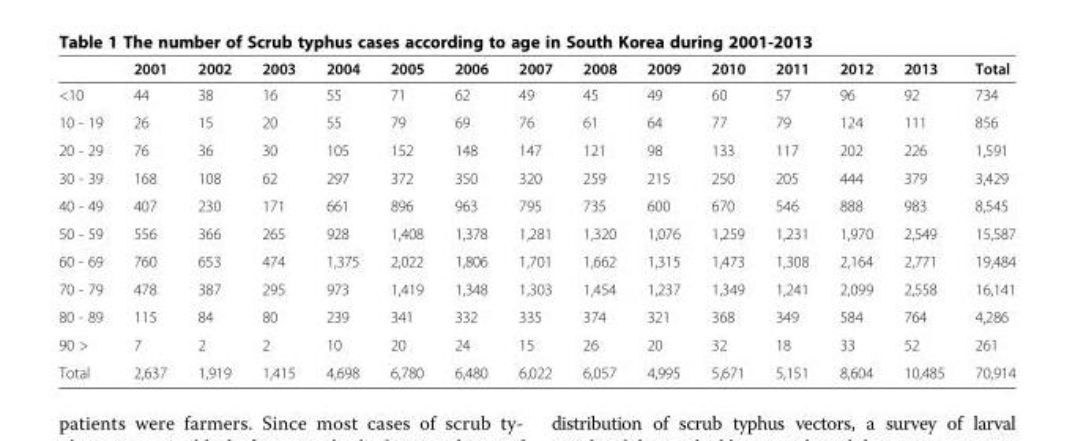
<table><thead><tr><td></td><td>2001</td><td>2002</td><td>2003</td><td>2004</td><td>2005</td><td>2006</td><td>2007</td><td>2008</td><td>2009</td><td>2010</td><td>2011</td><td>2012</td><td>2013</td><td>Total</td></tr></thead><tbody><tr><td>&lt;10</td><td>44</td><td>38</td><td>16</td><td>55</td><td>71</td><td>62</td><td>49</td><td>45</td><td>49</td><td>60</td><td>57</td><td>96</td><td>92</td><td>734</td></tr><tr><td>10 - 19</td><td>26</td><td>15</td><td>20</td><td>55</td><td>79</td><td>69</td><td>76</td><td>61</td><td>64</td><td>77</td><td>79</td><td>124</td><td>111</td><td>856</td></tr><tr><td>20 - 29</td><td>76</td><td>36</td><td>30</td><td>105</td><td>152</td><td>148</td><td>147</td><td>121</td><td>98</td><td>133</td><td>117</td><td>202</td><td>226</td><td>1,591</td></tr><tr><td>30 - 39</td><td>168</td><td>108</td><td>62</td><td>297</td><td>372</td><td>350</td><td>320</td><td>259</td><td>215</td><td>250</td><td>205</td><td>444</td><td>379</td><td>3,429</td></tr><tr><td>40 - 49</td><td>407</td><td>230</td><td>171</td><td>661</td><td>896</td><td>963</td><td>795</td><td>735</td><td>600</td><td>670</td><td>546</td><td>888</td><td>983</td><td>8,545</td></tr><tr><td>50 - 59</td><td>556</td><td>366</td><td>265</td><td>928</td><td>1,408</td><td>1,378</td><td>1,281</td><td>1,320</td><td>1,076</td><td>1,259</td><td>1,231</td><td>1,970</td><td>2,549</td><td>15,587</td></tr><tr><td>60 - 69</td><td>760</td><td>653</td><td>474</td><td>1,375</td><td>2,022</td><td>1,806</td><td>1,701</td><td>1,662</td><td>1,315</td><td>1,473</td><td>1,308</td><td>2,164</td><td>2,771</td><td>19,484</td></tr><tr><td>70 - 79</td><td>478</td><td>387</td><td>295</td><td>973</td><td>1,419</td><td>1,348</td><td>1,303</td><td>1,454</td><td>1,237</td><td>1,349</td><td>1,241</td><td>2,099</td><td>2,558</td><td>16,141</td></tr><tr><td>80 - 89</td><td>115</td><td>84</td><td>80</td><td>239</td><td>341</td><td>332</td><td>335</td><td>374</td><td>321</td><td>368</td><td>349</td><td>584</td><td>764</td><td>4,286</td></tr><tr><td>90 &gt;</td><td>7</td><td>2</td><td>2</td><td>10</td><td>20</td><td>24</td><td>15</td><td>26</td><td>20</td><td>32</td><td>18</td><td>33</td><td>52</td><td>261</td></tr><tr><td>Total</td><td>2,637</td><td>1,919</td><td>1,415</td><td>4,698</td><td>6,780</td><td>6,480</td><td>6,022</td><td>6,057</td><td>4,995</td><td>5,671</td><td>5,151</td><td>8,604</td><td>10,485</td><td>70,914</td></tr></tbody></table>